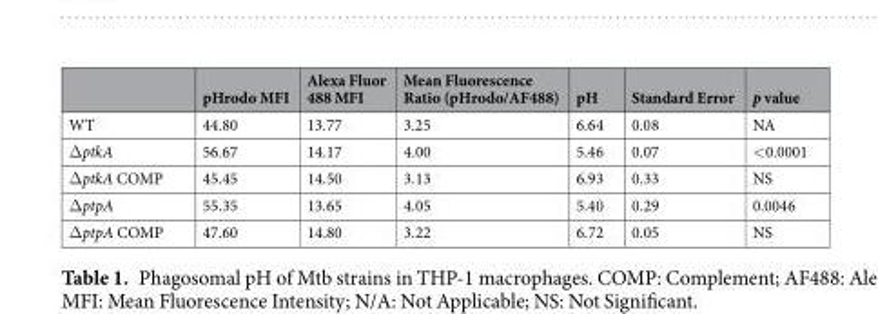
<table><thead><tr><td></td><td>pHrodo MFI</td><td>Alexa Fluor 488 MFI</td><td>Mean Fluorescence Ratio (pHrodo/AF488)</td><td>pH</td><td>Standard Error</td><td>p value</td></tr></thead><tbody><tr><td>WT</td><td>44.80</td><td>13.77</td><td>3.25</td><td>6.64</td><td>0.08</td><td>NA</td></tr><tr><td>ΔptkA</td><td>56.67</td><td>14.17</td><td>4.00</td><td>5.46</td><td>0.07</td><td>&lt;0.0001</td></tr><tr><td>ΔptkA COMP</td><td>45.45</td><td>14.50</td><td>3.13</td><td>6.93</td><td>0.33</td><td>NS</td></tr><tr><td>ΔptpA</td><td>55.35</td><td>13.65</td><td>4.05</td><td>5.40</td><td>0.29</td><td>0.0046</td></tr><tr><td>ΔptpA COMP</td><td>47.60</td><td>14.80</td><td>3.22</td><td>6.72</td><td>0.05</td><td>NS</td></tr></tbody></table>